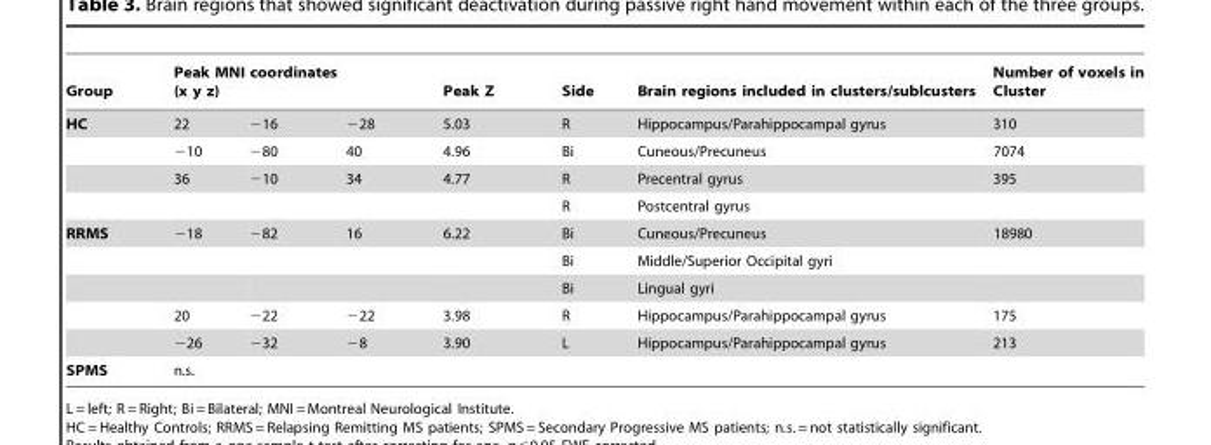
<table><thead><tr><td rowspan="2">Group HC</td><td colspan="3">Peak MNI coordinates (x y z)</td><td rowspan="2">Peak Z 5.03</td><td rowspan="2">Side R</td><td rowspan="2">Brain regions included in clusters/sublcusters Hippocampus/Parahippocampal gyrus</td><td rowspan="2">Number of voxels in Cluster 310</td></tr><tr><td>22</td><td>−16</td><td>−28</td></tr></thead><tbody><tr><td></td><td>−10</td><td>−80</td><td>40</td><td>4.96</td><td>Bi</td><td>Cuneous/Precuneus</td><td>7074</td></tr><tr><td></td><td>36</td><td>−10</td><td>34</td><td>4.77</td><td>R</td><td>Precentral gyrus</td><td>395</td></tr><tr><td></td><td></td><td></td><td></td><td></td><td>R</td><td>Postcentral gyrus</td><td></td></tr><tr><td rowspan="5">RRMS</td><td>−18</td><td>−82</td><td>16</td><td>6.22</td><td>Bi</td><td>Cuneous/Precuneus</td><td>18980</td></tr><tr><td></td><td></td><td></td><td></td><td>Bi</td><td>Middle/Superior Occipital gyri</td><td></td></tr><tr><td></td><td></td><td></td><td></td><td>Bi</td><td>Lingual gyri</td><td></td></tr><tr><td>20</td><td>−22</td><td>−22</td><td>3.98</td><td>R</td><td>Hippocampus/Parahippocampal gyrus</td><td>175</td></tr><tr><td>−26</td><td>−32</td><td>−8</td><td>3.90</td><td>L</td><td>Hippocampus/Parahippocampal gyrus</td><td>213</td></tr><tr><td>SPMS</td><td colspan="3">n.s.</td><td></td><td></td><td></td><td></td></tr></tbody></table>